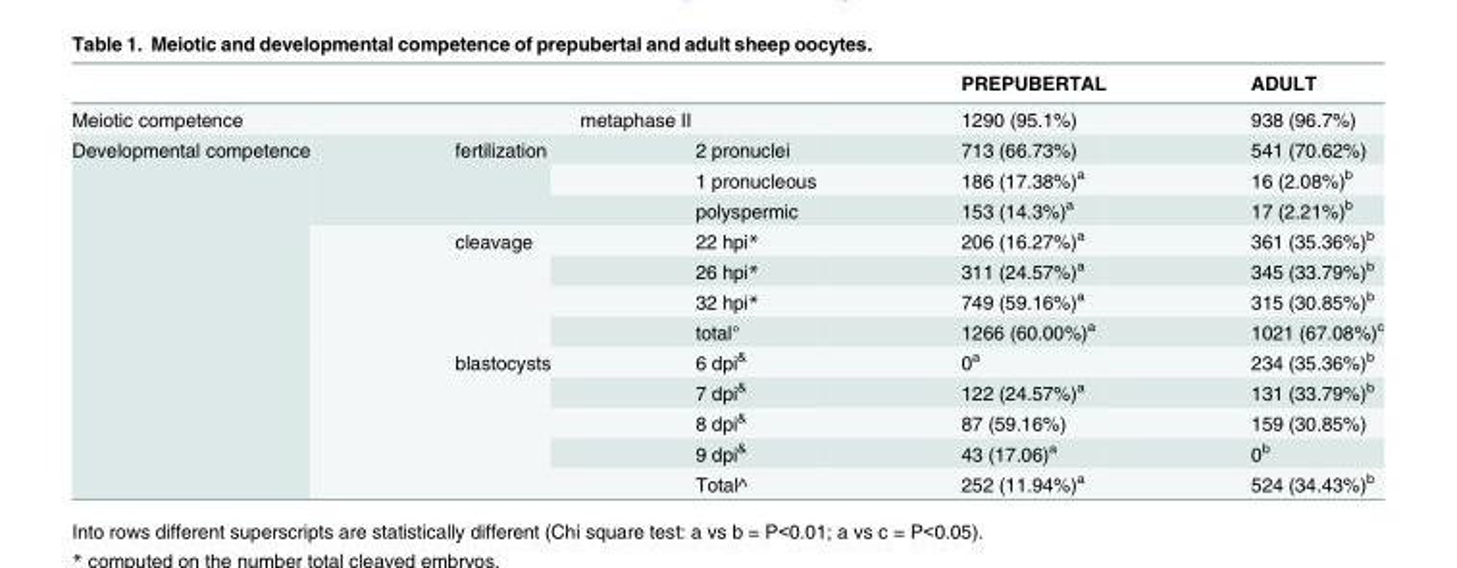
<table><thead><tr><td></td><td></td><td></td><td>PREPUBERTAL</td><td>ADULT</td></tr></thead><tbody><tr><td>Meiotic competence</td><td colspan="2">metaphase II</td><td>1290 (95.1%)</td><td>938 (96.7%)</td></tr><tr><td rowspan="12">Developmental competence</td><td rowspan="3">fertilization</td><td>2 pronuclei</td><td>713 (66.73%)</td><td>541 (70.62%)</td></tr><tr><td>1 pronucleous</td><td>186 (17.38%)<sup>a</sup></td><td>16 (2.08%)<sup>b</sup></td></tr><tr><td>polyspermic</td><td>153 (14.3%)<sup>a</sup></td><td>17 (2.21%)<sup>b</sup></td></tr><tr><td rowspan="4">cleavage</td><td>22 hpi*</td><td>206 (16.27%)<sup>a</sup></td><td>361 (35.36%)<sup>b</sup></td></tr><tr><td>26 hpi*</td><td>311 (24.57%)<sup>a</sup></td><td>345 (33.79%)<sup>b</sup></td></tr><tr><td>32 hpi*</td><td>749 (59.16%)<sup>a</sup></td><td>315 (30.85%)<sup>b</sup></td></tr><tr><td>total°</td><td>1266 (60.00%)<sup>a</sup></td><td>1021 (67.08%)<sup>c</sup></td></tr><tr><td rowspan="5">blastocysts</td><td>6 dpi<sup>&amp;</sup></td><td>0<sup>a</sup></td><td>234 (35.36%)<sup>b</sup></td></tr><tr><td>7 dpi<sup>&amp;</sup></td><td>122 (24.57%)<sup>a</sup></td><td>131 (33.79%)<sup>b</sup></td></tr><tr><td>8 dpi<sup>&amp;</sup></td><td>87 (59.16%)</td><td>159 (30.85%)</td></tr><tr><td>9 dpi<sup>&amp;</sup></td><td>43 (17.06)<sup>a</sup></td><td>0<sup>b</sup></td></tr><tr><td>Total^</td><td>252 (11.94%)<sup>a</sup></td><td>524 (34.43%)<sup>b</sup></td></tr></tbody></table>